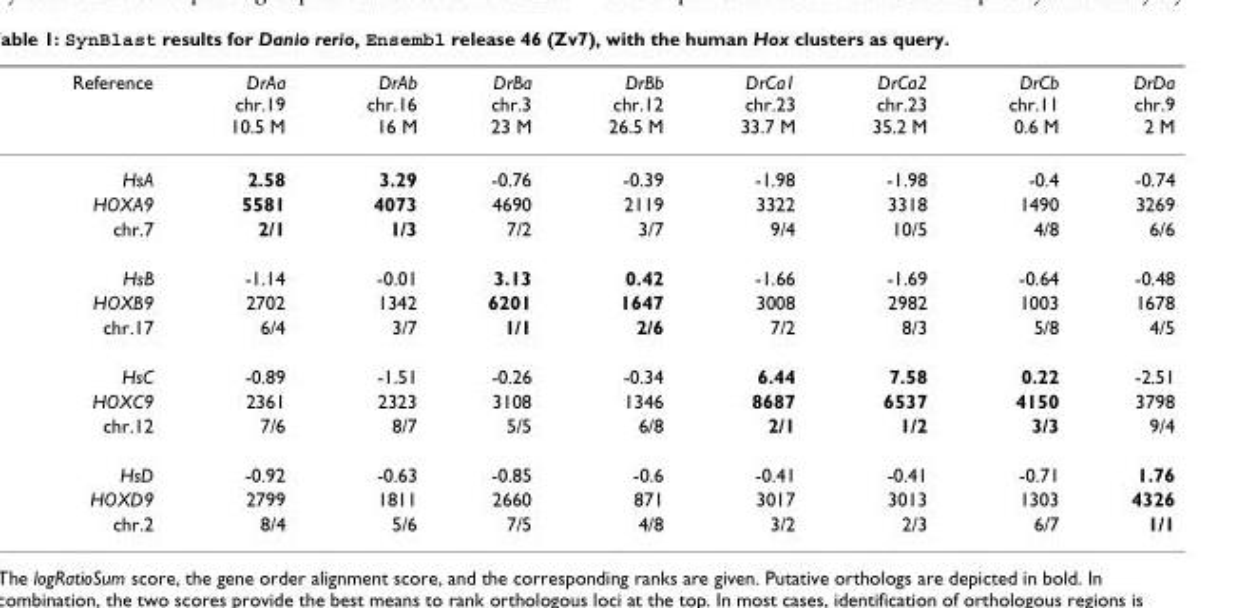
<table><thead><tr><td>Reference</td><td>DrAa chr.19 10.5 M</td><td>DrAb chr.16 16 M</td><td>DrBa chr.3 23 M</td><td>DrBb chr.12 26.5 M</td><td>DrCa1 chr.23 33.7 M</td><td>DrCa2 chr.23 35.2 M</td><td>DrCb chr.11 0.6 M</td><td>DrDa chr.9 2 M</td></tr></thead><tbody><tr><td>HsA</td><td>2.58</td><td>3.29</td><td>-0.76</td><td>-0.39</td><td>-1.98</td><td>-1.98</td><td>-0.4</td><td>-0.74</td></tr><tr><td>HOXA9</td><td>5581</td><td>4073</td><td>4690</td><td>2119</td><td>3322</td><td>3318</td><td>1490</td><td>3269</td></tr><tr><td>chr.7</td><td>2/1</td><td>1/3</td><td>7/2</td><td>3/7</td><td>9/4</td><td>10/5</td><td>4/8</td><td>6/6</td></tr><tr><td>HsB</td><td>-1.14</td><td>-0.01</td><td>3.13</td><td>0.42</td><td>-1.66</td><td>-1.69</td><td>-0.64</td><td>-0.48</td></tr><tr><td>HOXB9</td><td>2702</td><td>1342</td><td>6201</td><td>1647</td><td>3008</td><td>2982</td><td>1003</td><td>1678</td></tr><tr><td>chr.17</td><td>6/4</td><td>3/7</td><td>1/1</td><td>2/6</td><td>7/2</td><td>8/3</td><td>5/8</td><td>4/5</td></tr><tr><td>HsC</td><td>-0.89</td><td>-1.51</td><td>-0.26</td><td>-0.34</td><td>6.44</td><td>7.58</td><td>0.22</td><td>-2.51</td></tr><tr><td>HOXC9</td><td>2361</td><td>2323</td><td>3108</td><td>1346</td><td>8687</td><td>6537</td><td>4150</td><td>3798</td></tr><tr><td>chr.12</td><td>7/6</td><td>8/7</td><td>5/5</td><td>6/8</td><td>2/1</td><td>1/2</td><td>3/3</td><td>9/4</td></tr><tr><td>HsD</td><td>-0.92</td><td>-0.63</td><td>-0.85</td><td>-0.6</td><td>-0.41</td><td>-0.41</td><td>-0.71</td><td>1.76</td></tr><tr><td>HOXD9</td><td>2799</td><td>1811</td><td>2660</td><td>871</td><td>3017</td><td>3013</td><td>1303</td><td>4326</td></tr><tr><td>chr.2</td><td>8/4</td><td>5/6</td><td>7/5</td><td>4/8</td><td>3/2</td><td>2/3</td><td>6/7</td><td>1/1</td></tr></tbody></table>